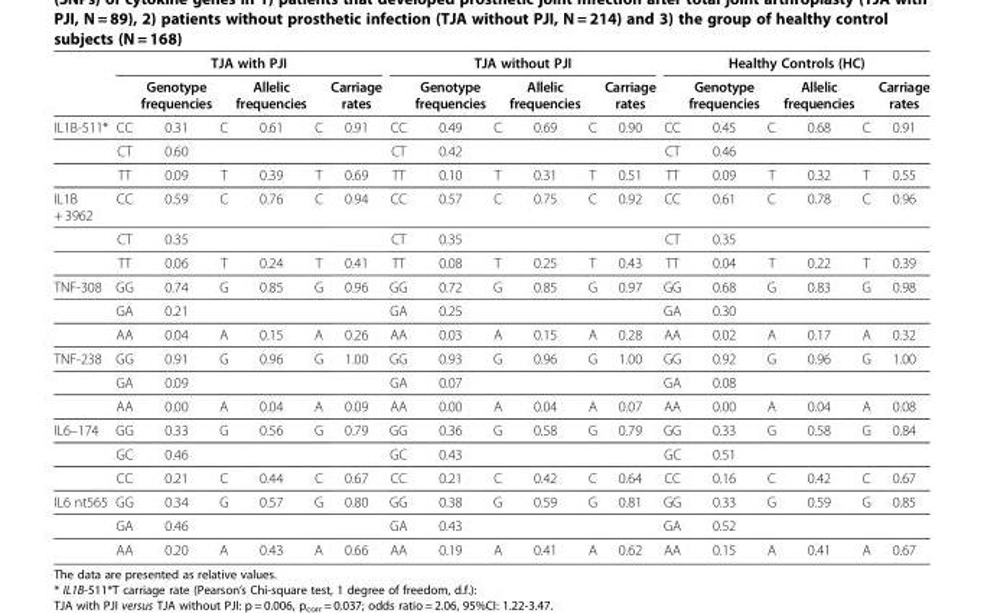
<table><thead><tr><td rowspan="2"></td><td colspan="6">TJA with PJI</td><td colspan="6">TJA without PJI</td><td colspan="6">Healthy Controls (HC)</td></tr><tr><td></td><td>Genotype frequencies</td><td></td><td>Allelic frequencies</td><td></td><td>Carriage rates</td><td></td><td>Genotype frequencies</td><td></td><td>Allelic frequencies</td><td></td><td>Carriage rates</td><td></td><td>Genotype frequencies</td><td></td><td>Allelic frequencies</td><td></td><td>Carriage rates</td></tr></thead><tbody><tr><td rowspan="3">IL1B-511*</td><td>CC</td><td>0.31</td><td>C</td><td>0.61</td><td>C</td><td>0.91</td><td>CC</td><td>0.49</td><td>C</td><td>0.69</td><td>C</td><td>0.90</td><td>CC</td><td>0.45</td><td>C</td><td>0.68</td><td>C</td><td>0.91</td></tr><tr><td>CT</td><td>0.60</td><td></td><td></td><td></td><td></td><td>CT</td><td>0.42</td><td></td><td></td><td></td><td></td><td>CT</td><td>0.46</td><td></td><td></td><td></td><td></td></tr><tr><td>TT</td><td>0.09</td><td>T</td><td>0.39</td><td>T</td><td>0.69</td><td>TT</td><td>0.10</td><td>T</td><td>0.31</td><td>T</td><td>0.51</td><td>TT</td><td>0.09</td><td>T</td><td>0.32</td><td>T</td><td>0.55</td></tr><tr><td rowspan="3">IL1B + 3962</td><td>CC</td><td>0.59</td><td>C</td><td>0.76</td><td>C</td><td>0.94</td><td>CC</td><td>0.57</td><td>C</td><td>0.75</td><td>C</td><td>0.92</td><td>CC</td><td>0.61</td><td>C</td><td>0.78</td><td>C</td><td>0.96</td></tr><tr><td>CT</td><td>0.35</td><td></td><td></td><td></td><td></td><td>CT</td><td>0.35</td><td></td><td></td><td></td><td></td><td>CT</td><td>0.35</td><td></td><td></td><td></td><td></td></tr><tr><td>TT</td><td>0.06</td><td>T</td><td>0.24</td><td>T</td><td>0.41</td><td>TT</td><td>0.08</td><td>T</td><td>0.25</td><td>T</td><td>0.43</td><td>TT</td><td>0.04</td><td>T</td><td>0.22</td><td>T</td><td>0.39</td></tr><tr><td rowspan="3">TNF-308</td><td>GG</td><td>0.74</td><td>G</td><td>0.85</td><td>G</td><td>0.96</td><td>GG</td><td>0.72</td><td>G</td><td>0.85</td><td>G</td><td>0.97</td><td>GG</td><td>0.68</td><td>G</td><td>0.83</td><td>G</td><td>0.98</td></tr><tr><td>GA</td><td>0.21</td><td></td><td></td><td></td><td></td><td>GA</td><td>0.25</td><td></td><td></td><td></td><td></td><td>GA</td><td>0.30</td><td></td><td></td><td></td><td></td></tr><tr><td>AA</td><td>0.04</td><td>A</td><td>0.15</td><td>A</td><td>0.26</td><td>AA</td><td>0.03</td><td>A</td><td>0.15</td><td>A</td><td>0.28</td><td>AA</td><td>0.02</td><td>A</td><td>0.17</td><td>A</td><td>0.32</td></tr><tr><td rowspan="3">TNF-238</td><td>GG</td><td>0.91</td><td>G</td><td>0.96</td><td>G</td><td>1.00</td><td>GG</td><td>0.93</td><td>G</td><td>0.96</td><td>G</td><td>1.00</td><td>GG</td><td>0.92</td><td>G</td><td>0.96</td><td>G</td><td>1.00</td></tr><tr><td>GA</td><td>0.09</td><td></td><td></td><td></td><td></td><td>GA</td><td>0.07</td><td></td><td></td><td></td><td></td><td>GA</td><td>0.08</td><td></td><td></td><td></td><td></td></tr><tr><td>AA</td><td>0.00</td><td>A</td><td>0.04</td><td>A</td><td>0.09</td><td>AA</td><td>0.00</td><td>A</td><td>0.04</td><td>A</td><td>0.07</td><td>AA</td><td>0.00</td><td>A</td><td>0.04</td><td>A</td><td>0.08</td></tr><tr><td rowspan="3">IL6–174</td><td>GG</td><td>0.33</td><td>G</td><td>0.56</td><td>G</td><td>0.79</td><td>GG</td><td>0.36</td><td>G</td><td>0.58</td><td>G</td><td>0.79</td><td>GG</td><td>0.33</td><td>G</td><td>0.58</td><td>G</td><td>0.84</td></tr><tr><td>GC</td><td>0.46</td><td></td><td></td><td></td><td></td><td>GC</td><td>0.43</td><td></td><td></td><td></td><td></td><td>GC</td><td>0.51</td><td></td><td></td><td></td><td></td></tr><tr><td>CC</td><td>0.21</td><td>C</td><td>0.44</td><td>C</td><td>0.67</td><td>CC</td><td>0.21</td><td>C</td><td>0.42</td><td>C</td><td>0.64</td><td>CC</td><td>0.16</td><td>C</td><td>0.42</td><td>C</td><td>0.67</td></tr><tr><td rowspan="3">IL6 nt565</td><td>GG</td><td>0.34</td><td>G</td><td>0.57</td><td>G</td><td>0.80</td><td>GG</td><td>0.38</td><td>G</td><td>0.59</td><td>G</td><td>0.81</td><td>GG</td><td>0.33</td><td>G</td><td>0.59</td><td>G</td><td>0.85</td></tr><tr><td>GA</td><td>0.46</td><td></td><td></td><td></td><td></td><td>GA</td><td>0.43</td><td></td><td></td><td></td><td></td><td>GA</td><td>0.52</td><td></td><td></td><td></td><td></td></tr><tr><td>AA</td><td>0.20</td><td>A</td><td>0.43</td><td>A</td><td>0.66</td><td>AA</td><td>0.19</td><td>A</td><td>0.41</td><td>A</td><td>0.62</td><td>AA</td><td>0.15</td><td>A</td><td>0.41</td><td>A</td><td>0.67</td></tr></tbody></table>